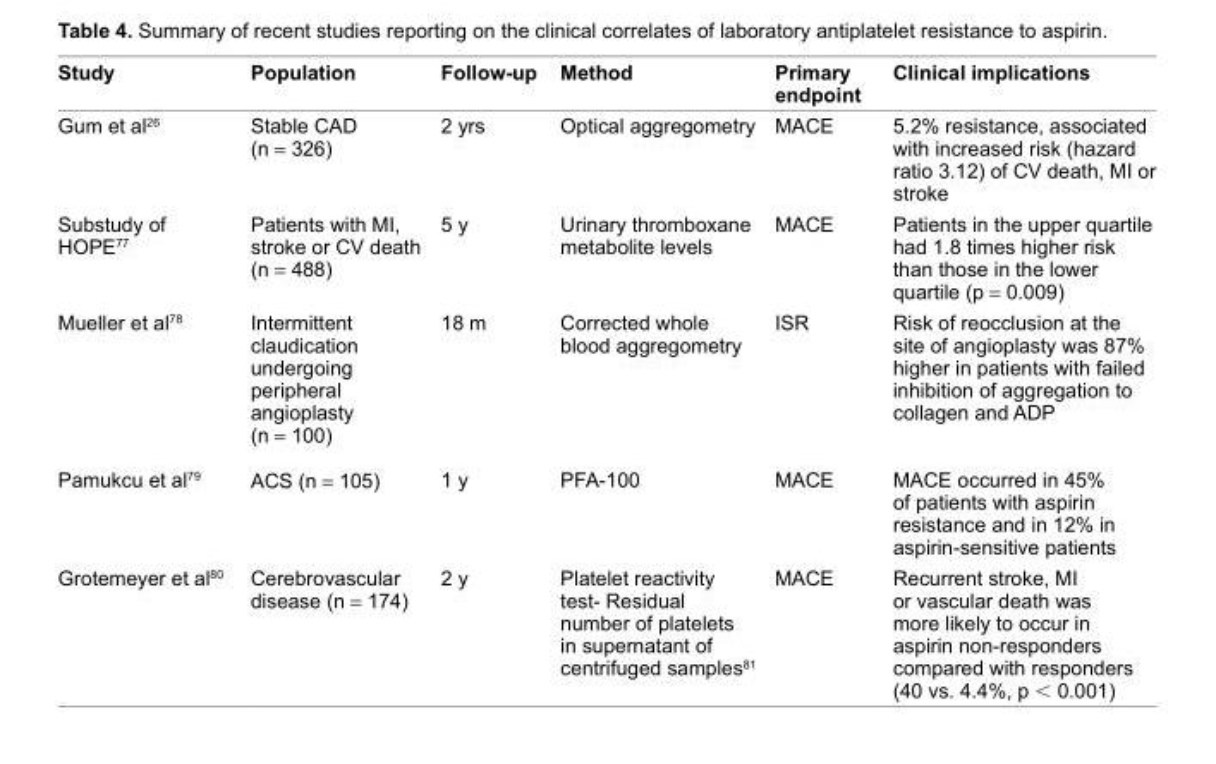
<table><thead><tr><td>study</td><td>population</td><td>Follow-up</td><td>Method</td><td>primary endpoint</td><td>clinical implications</td></tr></thead><tbody><tr><td>Gum et al<sup>26</sup></td><td>Stable CAD (n = 326)</td><td>2 yrs</td><td>Optical aggregometry</td><td>MACe</td><td>5.2% resistance, associated with increased risk (hazard ratio 3.12) of Cv death, Mi or stroke</td></tr><tr><td>Substudy of HOPe<sup>77</sup></td><td>Patients with Mi, stroke or Cv death (n = 488)</td><td>5 y</td><td>Urinary thromboxane metabolite levels</td><td>MACe</td><td>Patients in the upper quartile had 1.8 times higher risk than those in the lower quartile (p = 0.009)</td></tr><tr><td>Mueller et al<sup>78</sup></td><td>intermittent claudication undergoing peripheral angioplasty (n = 100)</td><td>18 m</td><td>Corrected whole blood aggregometry</td><td>iSR</td><td>Risk of reocclusion at the site of angioplasty was 87% higher in patients with failed inhibition of aggregation to collagen and ADP</td></tr><tr><td>Pamukcu et al<sup>79</sup></td><td>ACS (n = 105)</td><td>1 y</td><td>PFA-100</td><td>MACe</td><td>MACe occurred in 45% of patients with aspirin resistance and in 12% in aspirin-sensitive patients</td></tr><tr><td>Grotemeyer et al<sup>80</sup></td><td>Cerebrovascular disease (n = 174)</td><td>2 y</td><td>Platelet reactivity test- Residual number of platelets in supernatant of centrifuged samples<sup>81</sup></td><td>MACe</td><td>Recurrent stroke, Mi or vascular death was more likely to occur in aspirin non-responders compared with responders (40 vs. 4.4%, p &lt; 0.001)</td></tr></tbody></table>